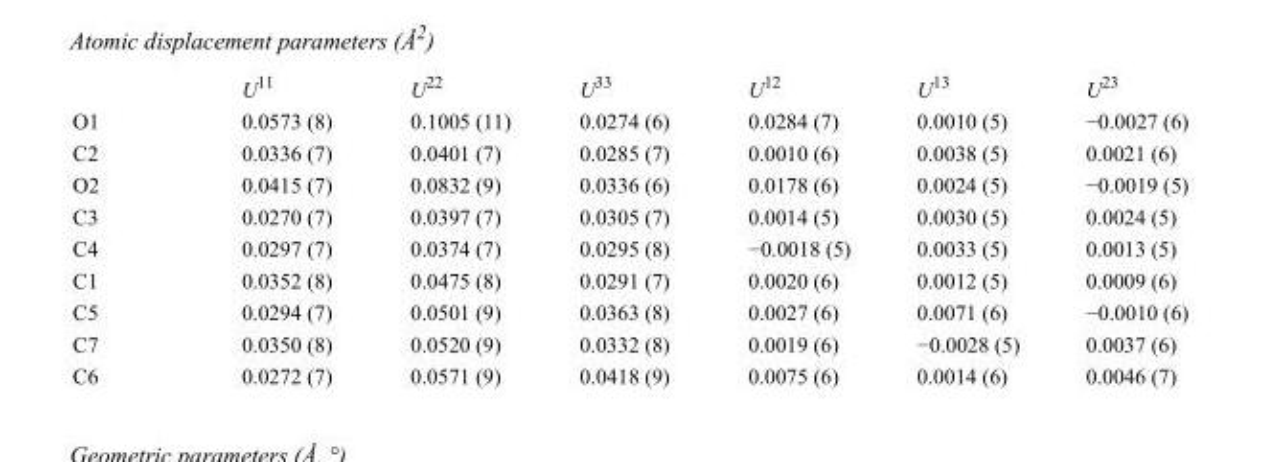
<table><thead><tr><td></td><td>U<sup>11</sup></td><td>U<sup>22</sup></td><td>U<sup>33</sup></td><td>U<sup>12</sup></td><td>U<sup>13</sup></td><td>U<sup>23</sup></td></tr></thead><tbody><tr><td>O1</td><td>0.0573 (8)</td><td>0.1005 (11)</td><td>0.0274 (6)</td><td>0.0284 (7)</td><td>0.0010 (5)</td><td>−0.0027 (6)</td></tr><tr><td>C2</td><td>0.0336 (7)</td><td>0.0401 (7)</td><td>0.0285 (7)</td><td>0.0010 (6)</td><td>0.0038 (5)</td><td>0.0021 (6)</td></tr><tr><td>O2</td><td>0.0415 (7)</td><td>0.0832 (9)</td><td>0.0336 (6)</td><td>0.0178 (6)</td><td>0.0024 (5)</td><td>−0.0019 (5)</td></tr><tr><td>C3</td><td>0.0270 (7)</td><td>0.0397 (7)</td><td>0.0305 (7)</td><td>0.0014 (5)</td><td>0.0030 (5)</td><td>0.0024 (5)</td></tr><tr><td>C4</td><td>0.0297 (7)</td><td>0.0374 (7)</td><td>0.0295 (8)</td><td>−0.0018 (5)</td><td>0.0033 (5)</td><td>0.0013 (5)</td></tr><tr><td>C1</td><td>0.0352 (8)</td><td>0.0475 (8)</td><td>0.0291 (7)</td><td>0.0020 (6)</td><td>0.0012 (5)</td><td>0.0009 (6)</td></tr><tr><td>C5</td><td>0.0294 (7)</td><td>0.0501 (9)</td><td>0.0363 (8)</td><td>0.0027 (6)</td><td>0.0071 (6)</td><td>−0.0010 (6)</td></tr><tr><td>C7</td><td>0.0350 (8)</td><td>0.0520 (9)</td><td>0.0332 (8)</td><td>0.0019 (6)</td><td>−0.0028 (5)</td><td>0.0037 (6)</td></tr><tr><td>C6</td><td>0.0272 (7)</td><td>0.0571 (9)</td><td>0.0418 (9)</td><td>0.0075 (6)</td><td>0.0014 (6)</td><td>0.0046 (7)</td></tr></tbody></table>